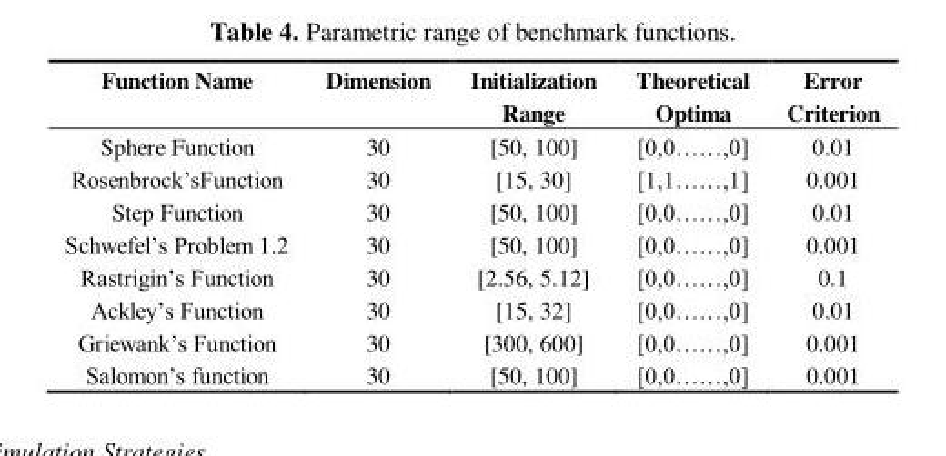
<table><thead><tr><td>Function Name</td><td>Dimension</td><td>Initialization Range</td><td>Theoretical Optima</td><td>Error Criterion</td></tr></thead><tbody><tr><td>Sphere Function</td><td>30</td><td>[50, 100]</td><td>[0,0……,0]</td><td>0.01</td></tr><tr><td>Rosenbrock’sFunction</td><td>30</td><td>[15, 30]</td><td>[1,1……,1]</td><td>0.001</td></tr><tr><td>Step Function</td><td>30</td><td>[50, 100]</td><td>[0,0……,0]</td><td>0.01</td></tr><tr><td>Schwefel’s Problem 1.2</td><td>30</td><td>[50, 100]</td><td>[0,0……,0]</td><td>0.001</td></tr><tr><td>Rastrigin’s Function</td><td>30</td><td>[2.56, 5.12]</td><td>[0,0……,0]</td><td>0.1</td></tr><tr><td>Ackley’s Function</td><td>30</td><td>[15, 32]</td><td>[0,0……,0]</td><td>0.01</td></tr><tr><td>Griewank’s Function</td><td>30</td><td>[300, 600]</td><td>[0,0……,0]</td><td>0.001</td></tr><tr><td>Salomon’s function</td><td>30</td><td>[50, 100]</td><td>[0,0……,0]</td><td>0.001</td></tr></tbody></table>